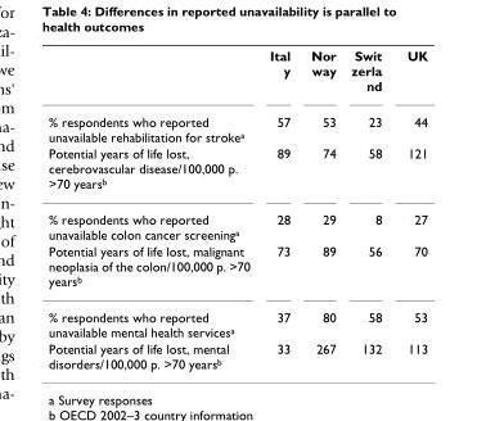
<table><thead><tr><td></td><td>Ital y</td><td>Nor way</td><td>Swit zerla nd</td><td>UK</td></tr></thead><tbody><tr><td>% respondents who reported unavailable rehabilitation for stroke<sup>a</sup></td><td>57</td><td>53</td><td>23</td><td>44</td></tr><tr><td>Potential years of life lost, cerebrovascular disease/100,000 p. &gt;70 years<sup>b</sup></td><td>89</td><td>74</td><td>58</td><td>121</td></tr><tr><td>% respondents who reported unavailable colon cancer screening<sup>a</sup></td><td>28</td><td>29</td><td>8</td><td>27</td></tr><tr><td>Potential years of life lost, malignant neoplasia of the colon/100,000 p. &gt;70 years<sup>b</sup></td><td>73</td><td>89</td><td>56</td><td>70</td></tr><tr><td>% respondents who reported unavailable mental health services<sup>a</sup></td><td>37</td><td>80</td><td>58</td><td>53</td></tr><tr><td>Potential years of life lost, mental disorders/100,000 p. &gt;70 years<sup>b</sup></td><td>33</td><td>267</td><td>132</td><td>113</td></tr></tbody></table>